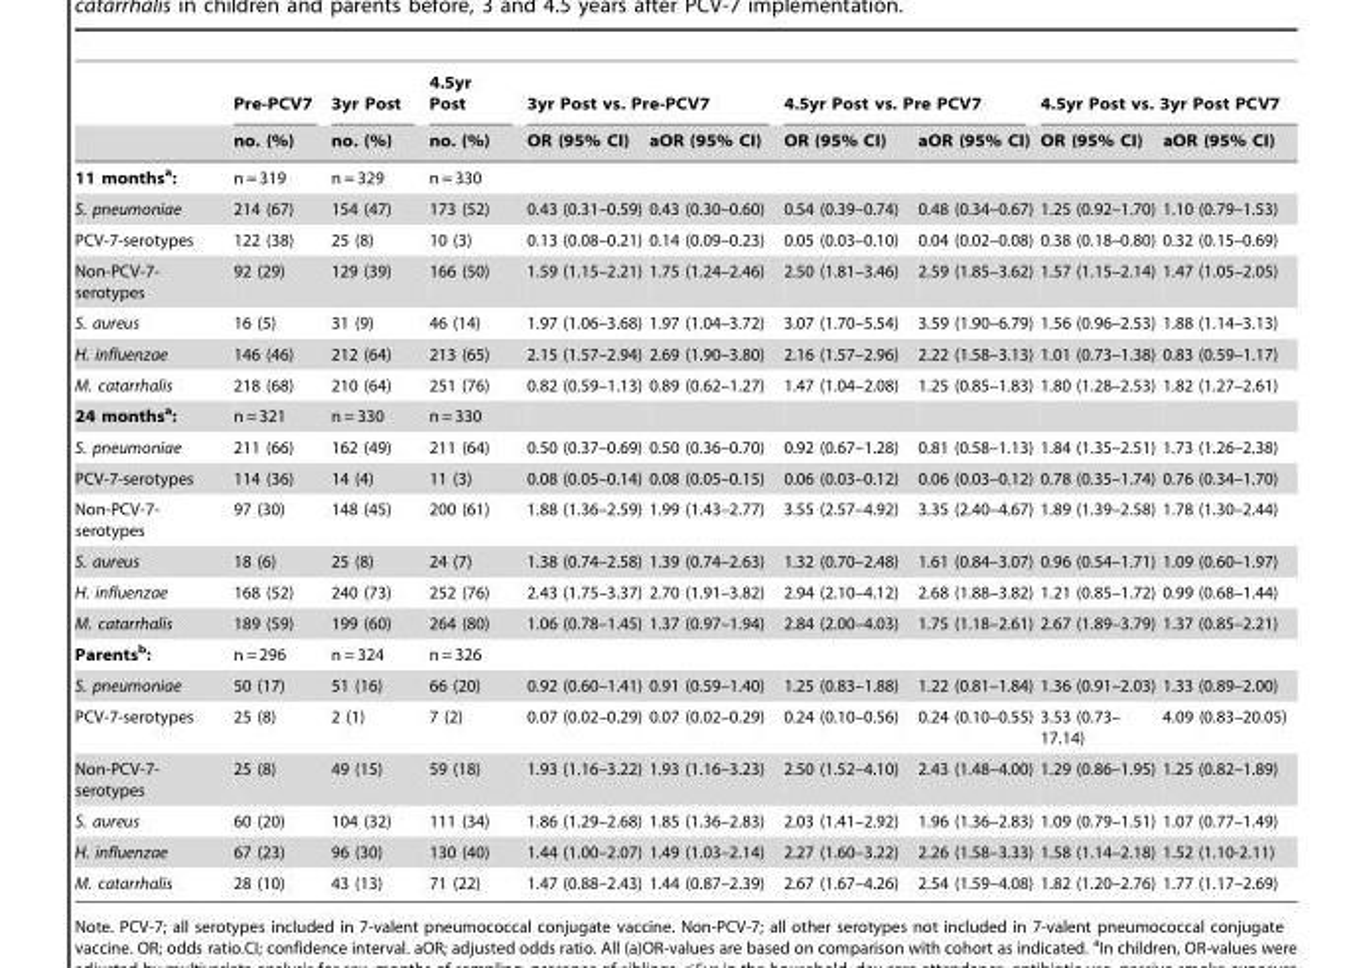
<table><thead><tr><td rowspan="2"></td><td rowspan="2">Pre-PCV7 no. (%)</td><td rowspan="2">3yr Post no. (%)</td><td rowspan="2">4.5yr Post no. (%)</td><td colspan="2">3yr Post vs. Pre-PCV7</td><td colspan="2">4.5yr Post vs. Pre PCV7</td><td colspan="2">4.5yr Post vs. 3yr Post PCV7</td></tr><tr><td>OR (95% CI)</td><td>aOR (95% CI)</td><td>OR (95% CI)</td><td>aOR (95% CI)</td><td>OR (95% CI)</td><td>aOR (95% CI)</td></tr></thead><tbody><tr><td>11 months<sup>a</sup>:</td><td>n = 319</td><td>n = 329</td><td>n = 330</td><td></td><td></td><td></td><td></td><td></td><td></td></tr><tr><td>S. pneumoniae</td><td>214 (67)</td><td>154 (47)</td><td>173 (52)</td><td>0.43 (0.31–0.59)</td><td>0.43 (0.30–0.60)</td><td>0.54 (0.39–0.74)</td><td>0.48 (0.34–0.67)</td><td>1.25 (0.92–1.70)</td><td>1.10 (0.79–1.53)</td></tr><tr><td>PCV-7-serotypes</td><td>122 (38)</td><td>25 (8)</td><td>10 (3)</td><td>0.13 (0.08–0.21)</td><td>0.14 (0.09–0.23)</td><td>0.05 (0.03–0.10)</td><td>0.04 (0.02–0.08)</td><td>0.38 (0.18–0.80)</td><td>0.32 (0.15–0.69)</td></tr><tr><td>Non-PCV-7- serotypes</td><td>92 (29)</td><td>129 (39)</td><td>166 (50)</td><td>1.59 (1.15–2.21)</td><td>1.75 (1.24–2.46)</td><td>2.50 (1.81–3.46)</td><td>2.59 (1.85–3.62)</td><td>1.57 (1.15–2.14)</td><td>1.47 (1.05–2.05)</td></tr><tr><td>S. aureus</td><td>16 (5)</td><td>31 (9)</td><td>46 (14)</td><td>1.97 (1.06–3.68)</td><td>1.97 (1.04–3.72)</td><td>3.07 (1.70–5.54)</td><td>3.59 (1.90–6.79)</td><td>1.56 (0.96–2.53)</td><td>1.88 (1.14–3.13)</td></tr><tr><td>H. influenzae</td><td>146 (46)</td><td>212 (64)</td><td>213 (65)</td><td>2.15 (1.57–2.94)</td><td>2.69 (1.90–3.80)</td><td>2.16 (1.57–2.96)</td><td>2.22 (1.58–3.13)</td><td>1.01 (0.73–1.38)</td><td>0.83 (0.59–1.17)</td></tr><tr><td>M. catarrhalis</td><td>218 (68)</td><td>210 (64)</td><td>251 (76)</td><td>0.82 (0.59–1.13)</td><td>0.89 (0.62–1.27)</td><td>1.47 (1.04–2.08)</td><td>1.25 (0.85–1.83)</td><td>1.80 (1.28–2.53)</td><td>1.82 (1.27–2.61)</td></tr><tr><td>24 months<sup>a</sup>:</td><td>n = 321</td><td>n = 330</td><td>n = 330</td><td></td><td></td><td></td><td></td><td></td><td></td></tr><tr><td>S. pneumoniae</td><td>211 (66)</td><td>162 (49)</td><td>211 (64)</td><td>0.50 (0.37–0.69)</td><td>0.50 (0.36–0.70)</td><td>0.92 (0.67–1.28)</td><td>0.81 (0.58–1.13)</td><td>1.84 (1.35–2.51)</td><td>1.73 (1.26–2.38)</td></tr><tr><td>PCV-7-serotypes</td><td>114 (36)</td><td>14 (4)</td><td>11 (3)</td><td>0.08 (0.05–0.14)</td><td>0.08 (0.05–0.15)</td><td>0.06 (0.03–0.12)</td><td>0.06 (0.03–0.12)</td><td>0.78 (0.35–1.74)</td><td>0.76 (0.34–1.70)</td></tr><tr><td>Non-PCV-7- serotypes</td><td>97 (30)</td><td>148 (45)</td><td>200 (61)</td><td>1.88 (1.36–2.59)</td><td>1.99 (1.43–2.77)</td><td>3.55 (2.57–4.92)</td><td>3.35 (2.40–4.67)</td><td>1.89 (1.39–2.58)</td><td>1.78 (1.30–2.44)</td></tr><tr><td>S. aureus</td><td>18 (6)</td><td>25 (8)</td><td>24 (7)</td><td>1.38 (0.74–2.58)</td><td>1.39 (0.74–2.63)</td><td>1.32 (0.70–2.48)</td><td>1.61 (0.84–3.07)</td><td>0.96 (0.54–1.71)</td><td>1.09 (0.60–1.97)</td></tr><tr><td>H. influenzae</td><td>168 (52)</td><td>240 (73)</td><td>252 (76)</td><td>2.43 (1.75–3.37)</td><td>2.70 (1.91–3.82)</td><td>2.94 (2.10–4.12)</td><td>2.68 (1.88–3.82)</td><td>1.21 (0.85–1.72)</td><td>0.99 (0.68–1.44)</td></tr><tr><td>M. catarrhalis</td><td>189 (59)</td><td>199 (60)</td><td>264 (80)</td><td>1.06 (0.78–1.45)</td><td>1.37 (0.97–1.94)</td><td>2.84 (2.00–4.03)</td><td>1.75 (1.18–2.61)</td><td>2.67 (1.89–3.79)</td><td>1.37 (0.85–2.21)</td></tr><tr><td>Parents<sup>b</sup>:</td><td>n = 296</td><td>n = 324</td><td>n = 326</td><td></td><td></td><td></td><td></td><td></td><td></td></tr><tr><td>S. pneumoniae</td><td>50 (17)</td><td>51 (16)</td><td>66 (20)</td><td>0.92 (0.60–1.41)</td><td>0.91 (0.59–1.40)</td><td>1.25 (0.83–1.88)</td><td>1.22 (0.81–1.84)</td><td>1.36 (0.91–2.03)</td><td>1.33 (0.89–2.00)</td></tr><tr><td>PCV-7-serotypes</td><td>25 (8)</td><td>2 (1)</td><td>7 (2)</td><td>0.07 (0.02–0.29)</td><td>0.07 (0.02–0.29)</td><td>0.24 (0.10–0.56)</td><td>0.24 (0.10–0.55)</td><td>3.53 (0.73– 17.14)</td><td>4.09 (0.83–20.05)</td></tr><tr><td>Non-PCV-7- serotypes</td><td>25 (8)</td><td>49 (15)</td><td>59 (18)</td><td>1.93 (1.16–3.22)</td><td>1.93 (1.16–3.23)</td><td>2.50 (1.52–4.10)</td><td>2.43 (1.48–4.00)</td><td>1.29 (0.86–1.95)</td><td>1.25 (0.82–1.89)</td></tr><tr><td>S. aureus</td><td>60 (20)</td><td>104 (32)</td><td>111 (34)</td><td>1.86 (1.29–2.68)</td><td>1.85 (1.36–2.83)</td><td>2.03 (1.41–2.92)</td><td>1.96 (1.36–2.83)</td><td>1.09 (0.79–1.51)</td><td>1.07 (0.77–1.49)</td></tr><tr><td>H. influenzae</td><td>67 (23)</td><td>96 (30)</td><td>130 (40)</td><td>1.44 (1.00–2.07)</td><td>1.49 (1.03–2.14)</td><td>2.27 (1.60–3.22)</td><td>2.26 (1.58–3.33)</td><td>1.58 (1.14–2.18)</td><td>1.52 (1.10-2.11)</td></tr><tr><td>M. catarrhalis</td><td>28 (10)</td><td>43 (13)</td><td>71 (22)</td><td>1.47 (0.88–2.43)</td><td>1.44 (0.87–2.39)</td><td>2.67 (1.67–4.26)</td><td>2.54 (1.59–4.08)</td><td>1.82 (1.20–2.76)</td><td>1.77 (1.17–2.69)</td></tr></tbody></table>